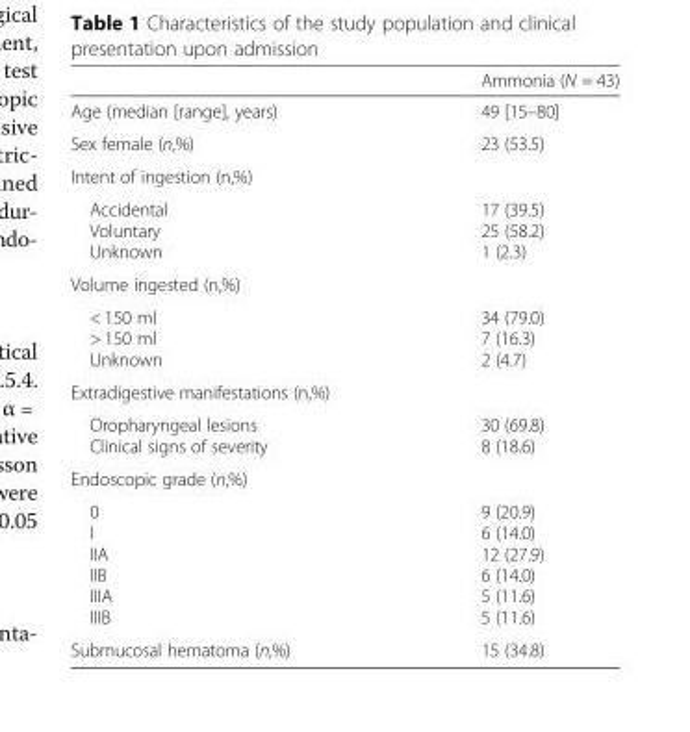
<table><thead><tr><td></td><td>Ammonia (N = 43)</td></tr></thead><tbody><tr><td>Age (median [range], years)</td><td>49 [15–80]</td></tr><tr><td>Sex female (n,%)</td><td>23 (53.5)</td></tr><tr><td colspan="2">Intent of ingestion (n,%)</td></tr><tr><td>Accidental Voluntary Unknown</td><td>17 (39.5) 25 (58.2) 1 (2.3)</td></tr><tr><td colspan="2">Volume ingested (n,%)</td></tr><tr><td>&lt; 150 ml &gt; 150 ml Unknown</td><td>34 (79.0) 7 (16.3) 2 (4.7)</td></tr><tr><td colspan="2">Extradigestive manifestations (n,%)</td></tr><tr><td>Oropharyngeal lesions Clinical signs of severity</td><td>30 (69.8) 8 (18.6)</td></tr><tr><td colspan="2">Endoscopic grade (n,%)</td></tr><tr><td>0 I IIA IIB IIIA IIIB</td><td>9 (20.9) 6 (14.0) 12 (27.9) 6 (14.0) 5 (11.6) 5 (11.6)</td></tr><tr><td>Submucosal hematoma (n,%)</td><td>15 (34.8)</td></tr></tbody></table>